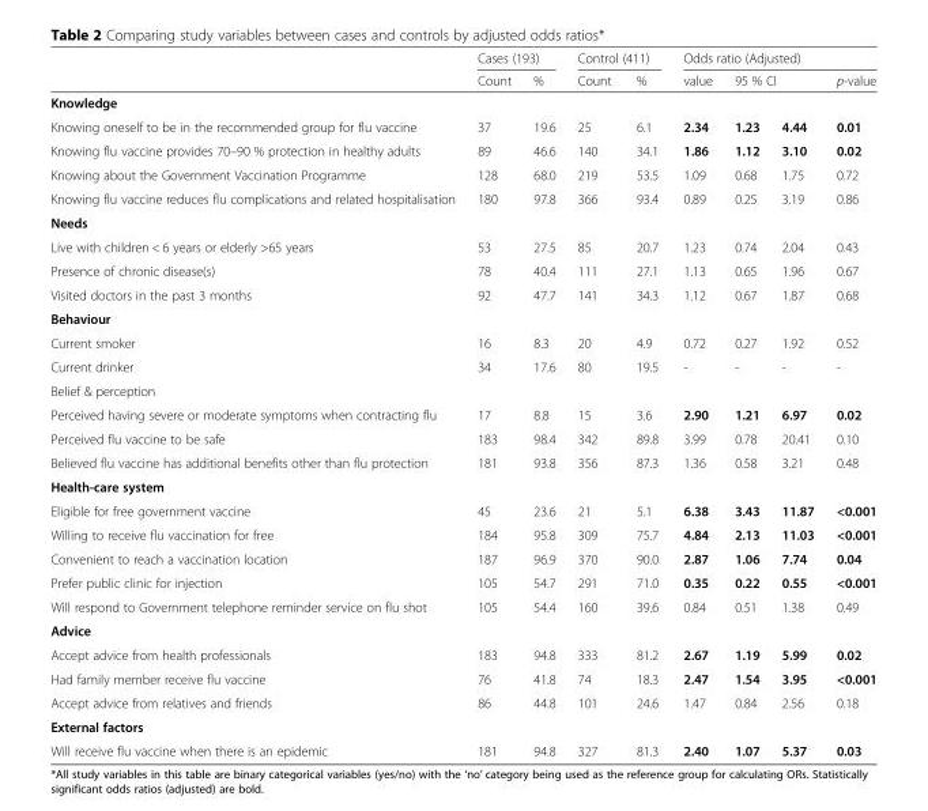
<table><thead><tr><td rowspan="2"></td><td colspan="2">Cases (193)</td><td colspan="2">Control (411)</td><td colspan="4">Odds ratio (Adjusted)</td></tr><tr><td>Count</td><td>%</td><td>Count</td><td>%</td><td>value</td><td colspan="2">95 % CI</td><td>p-value</td></tr><tr><td colspan="9">Knowledge</td></tr><tr><td>Knowing oneself to be in the recommended group for flu vaccine</td><td>37</td><td>19.6</td><td>25</td><td>6.1</td><td>2.34</td><td>1.23</td><td>4.44</td><td>0.01</td></tr></thead><tbody><tr><td>Knowing flu vaccine provides 70–90 % protection in healthy adults</td><td>89</td><td>46.6</td><td>140</td><td>34.1</td><td>1.86</td><td>1.12</td><td>3.10</td><td>0.02</td></tr><tr><td>Knowing about the Government Vaccination Programme</td><td>128</td><td>68.0</td><td>219</td><td>53.5</td><td>1.09</td><td>0.68</td><td>1.75</td><td>0.72</td></tr><tr><td>Knowing flu vaccine reduces flu complications and related hospitalisation</td><td>180</td><td>97.8</td><td>366</td><td>93.4</td><td>0.89</td><td>0.25</td><td>3.19</td><td>0.86</td></tr><tr><td colspan="9">Needs</td></tr><tr><td>Live with children &lt; 6 years or elderly &gt;65 years</td><td>53</td><td>27.5</td><td>85</td><td>20.7</td><td>1.23</td><td>0.74</td><td>2.04</td><td>0.43</td></tr><tr><td>Presence of chronic disease(s)</td><td>78</td><td>40.4</td><td>111</td><td>27.1</td><td>1.13</td><td>0.65</td><td>1.96</td><td>0.67</td></tr><tr><td>Visited doctors in the past 3 months</td><td>92</td><td>47.7</td><td>141</td><td>34.3</td><td>1.12</td><td>0.67</td><td>1.87</td><td>0.68</td></tr><tr><td colspan="9">Behaviour</td></tr><tr><td>Current smoker</td><td>16</td><td>8.3</td><td>20</td><td>4.9</td><td>0.72</td><td>0.27</td><td>1.92</td><td>0.52</td></tr><tr><td>Current drinker</td><td>34</td><td>17.6</td><td>80</td><td>19.5</td><td>-</td><td>-</td><td>-</td><td>-</td></tr><tr><td colspan="9">Belief &amp; perception</td></tr><tr><td>Perceived having severe or moderate symptoms when contracting flu</td><td>17</td><td>8.8</td><td>15</td><td>3.6</td><td>2.90</td><td>1.21</td><td>6.97</td><td>0.02</td></tr><tr><td>Perceived flu vaccine to be safe</td><td>183</td><td>98.4</td><td>342</td><td>89.8</td><td>3.99</td><td>0.78</td><td>20.41</td><td>0.10</td></tr><tr><td>Believed flu vaccine has additional benefits other than flu protection</td><td>181</td><td>93.8</td><td>356</td><td>87.3</td><td>1.36</td><td>0.58</td><td>3.21</td><td>0.48</td></tr><tr><td colspan="9">Health-care system</td></tr><tr><td>Eligible for free government vaccine</td><td>45</td><td>23.6</td><td>21</td><td>5.1</td><td>6.38</td><td>3.43</td><td>11.87</td><td>&lt;0.001</td></tr><tr><td>Willing to receive flu vaccination for free</td><td>184</td><td>95.8</td><td>309</td><td>75.7</td><td>4.84</td><td>2.13</td><td>11.03</td><td>&lt;0.001</td></tr><tr><td>Convenient to reach a vaccination location</td><td>187</td><td>96.9</td><td>370</td><td>90.0</td><td>2.87</td><td>1.06</td><td>7.74</td><td>0.04</td></tr><tr><td>Prefer public clinic for injection</td><td>105</td><td>54.7</td><td>291</td><td>71.0</td><td>0.35</td><td>0.22</td><td>0.55</td><td>&lt;0.001</td></tr><tr><td>Will respond to Government telephone reminder service on flu shot</td><td>105</td><td>54.4</td><td>160</td><td>39.6</td><td>0.84</td><td>0.51</td><td>1.38</td><td>0.49</td></tr><tr><td colspan="9">Advice</td></tr><tr><td>Accept advice from health professionals</td><td>183</td><td>94.8</td><td>333</td><td>81.2</td><td>2.67</td><td>1.19</td><td>5.99</td><td>0.02</td></tr><tr><td>Had family member receive flu vaccine</td><td>76</td><td>41.8</td><td>74</td><td>18.3</td><td>2.47</td><td>1.54</td><td>3.95</td><td>&lt;0.001</td></tr><tr><td>Accept advice from relatives and friends</td><td>86</td><td>44.8</td><td>101</td><td>24.6</td><td>1.47</td><td>0.84</td><td>2.56</td><td>0.18</td></tr><tr><td colspan="9">External factors</td></tr><tr><td>Will receive flu vaccine when there is an epidemic</td><td>181</td><td>94.8</td><td>327</td><td>81.3</td><td>2.40</td><td>1.07</td><td>5.37</td><td>0.03</td></tr></tbody></table>